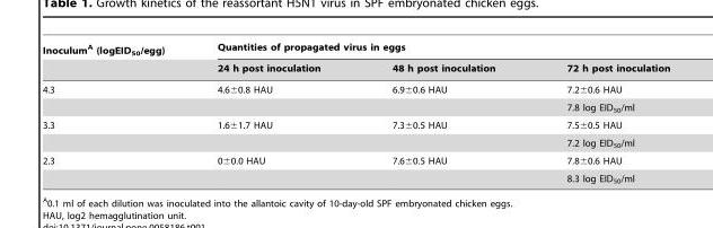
<table><thead><tr><td rowspan="2">Inoculum<sup>A</sup> (logEID<sub>50</sub>/egg)</td><td colspan="3">Quantities of propagated virus in eggs</td></tr><tr><td>24 h post inoculation</td><td>48 h post inoculation</td><td>72 h post inoculation</td></tr></thead><tbody><tr><td rowspan="2">4.3</td><td>4.6±0.8 HAU</td><td>6.9±0.6 HAU</td><td>7.2±0.6 HAU</td></tr><tr><td></td><td></td><td>7.8 log EID<sub>50</sub>/ml</td></tr><tr><td rowspan="2">3.3</td><td>1.6±1.7 HAU</td><td>7.3±0.5 HAU</td><td>7.5±0.5 HAU</td></tr><tr><td></td><td></td><td>7.2 log EID<sub>50</sub>/ml</td></tr><tr><td rowspan="2">2.3</td><td>0±0.0 HAU</td><td>7.6±0.5 HAU</td><td>7.8±0.6 HAU</td></tr><tr><td></td><td></td><td>8.3 log EID<sub>50</sub>/ml</td></tr></tbody></table>